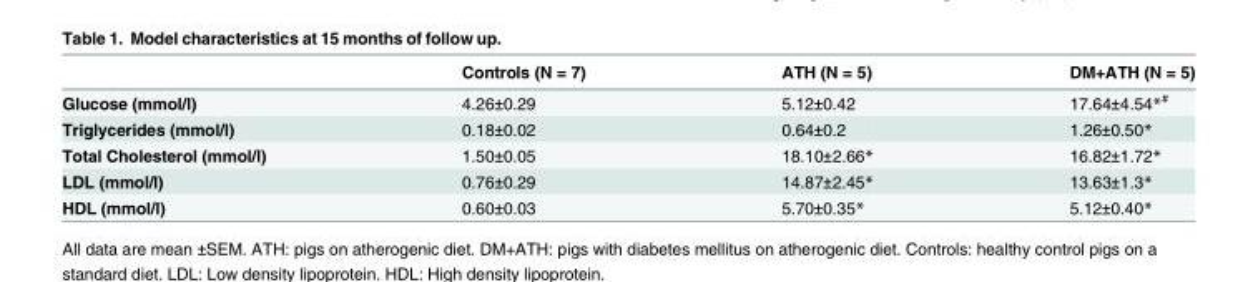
<table><thead><tr><td></td><td>Controls (N = 7)</td><td>ATH (N = 5)</td><td>DM+ATH (N = 5)</td></tr></thead><tbody><tr><td>Glucose (mmol/l)</td><td>4.26±0.29</td><td>5.12±0.42</td><td>17.64±4.54*<sup>#</sup></td></tr><tr><td>Triglycerides (mmol/l)</td><td>0.18±0.02</td><td>0.64±0.2</td><td>1.26±0.50*</td></tr><tr><td>Total Cholesterol (mmol/l)</td><td>1.50±0.05</td><td>18.10±2.66*</td><td>16.82±1.72*</td></tr><tr><td>LDL (mmol/l)</td><td>0.76±0.29</td><td>14.87±2.45*</td><td>13.63±1.3*</td></tr><tr><td>HDL (mmol/l)</td><td>0.60±0.03</td><td>5.70±0.35*</td><td>5.12±0.40*</td></tr></tbody></table>